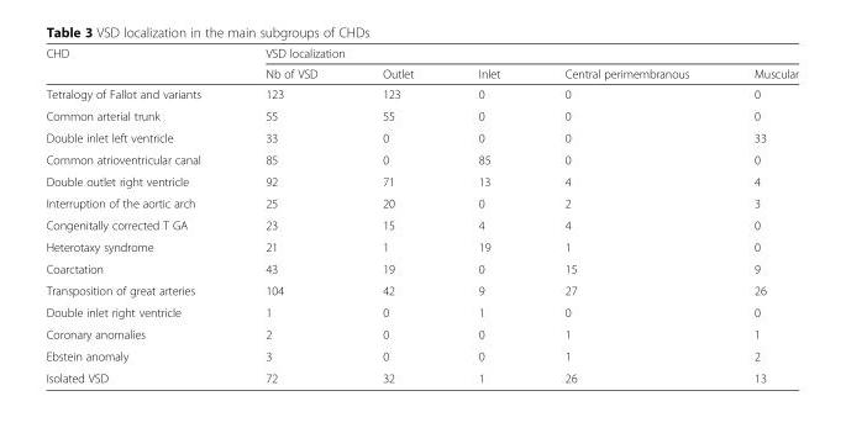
<table><thead><tr><td rowspan="2">CHD</td><td colspan="5">VSD localization</td></tr><tr><td>Nb of VSD</td><td>Outlet</td><td>Inlet</td><td>Central perimembranous</td><td>Muscular</td></tr></thead><tbody><tr><td>Tetralogy of Fallot and variants</td><td>123</td><td>123</td><td>0</td><td>0</td><td>0</td></tr><tr><td>Common arterial trunk</td><td>55</td><td>55</td><td>0</td><td>0</td><td>0</td></tr><tr><td>Double inlet left ventricle</td><td>33</td><td>0</td><td>0</td><td>0</td><td>33</td></tr><tr><td>Common atrioventricular canal</td><td>85</td><td>0</td><td>85</td><td>0</td><td>0</td></tr><tr><td>Double outlet right ventricle</td><td>92</td><td>71</td><td>13</td><td>4</td><td>4</td></tr><tr><td>Interruption of the aortic arch</td><td>25</td><td>20</td><td>0</td><td>2</td><td>3</td></tr><tr><td>Congenitally corrected T GA</td><td>23</td><td>15</td><td>4</td><td>4</td><td>0</td></tr><tr><td>Heterotaxy syndrome</td><td>21</td><td>1</td><td>19</td><td>1</td><td>0</td></tr><tr><td>Coarctation</td><td>43</td><td>19</td><td>0</td><td>15</td><td>9</td></tr><tr><td>Transposition of great arteries</td><td>104</td><td>42</td><td>9</td><td>27</td><td>26</td></tr><tr><td>Double inlet right ventricle</td><td>1</td><td>0</td><td>1</td><td>0</td><td>0</td></tr><tr><td>Coronary anomalies</td><td>2</td><td>0</td><td>0</td><td>1</td><td>1</td></tr><tr><td>Ebstein anomaly</td><td>3</td><td>0</td><td>0</td><td>1</td><td>2</td></tr><tr><td>Isolated VSD</td><td>72</td><td>32</td><td>1</td><td>26</td><td>13</td></tr></tbody></table>